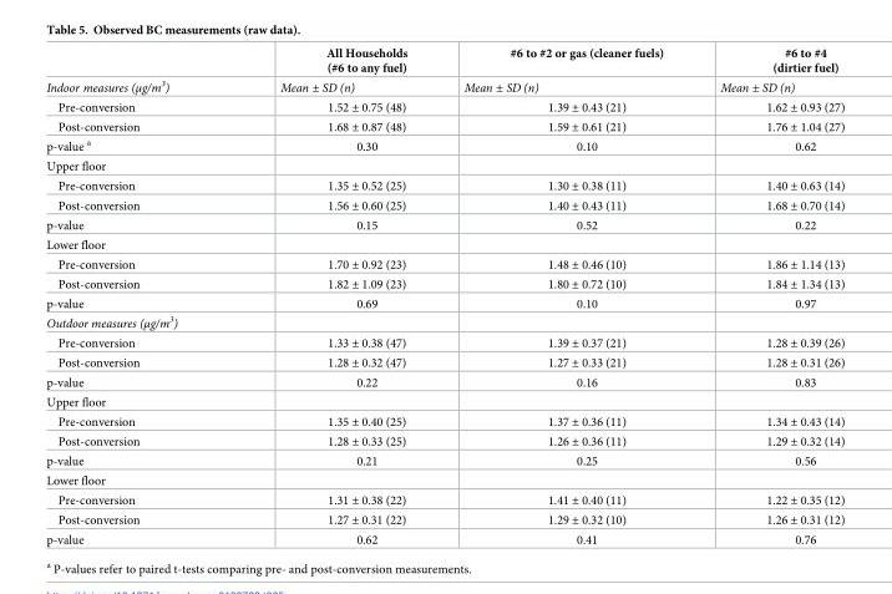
<table><thead><tr><td></td><td>All Households (#6 to any fuel)</td><td>#6 to #2 or gas (cleaner fuels)</td><td>#6 to #4 (dirtier fuel)</td></tr></thead><tbody><tr><td>Indoor measures (μg/m<sup>3</sup>)</td><td>Mean ± SD (n)</td><td>Mean ± SD (n)</td><td>Mean ± SD (n)</td></tr><tr><td>Pre-conversion</td><td>1.52 ± 0.75 (48)</td><td>1.39 ± 0.43 (21)</td><td>1.62 ± 0.93 (27)</td></tr><tr><td>Post-conversion</td><td>1.68 ± 0.87 (48)</td><td>1.59 ± 0.61 (21)</td><td>1.76 ± 1.04 (27)</td></tr><tr><td>p-value <sup>a</sup></td><td>0.30</td><td>0.10</td><td>0.62</td></tr><tr><td colspan="4">Upper floor</td></tr><tr><td>Pre-conversion</td><td>1.35 ± 0.52 (25)</td><td>1.30 ± 0.38 (11)</td><td>1.40 ± 0.63 (14)</td></tr><tr><td>Post-conversion</td><td>1.56 ± 0.60 (25)</td><td>1.40 ± 0.43 (11)</td><td>1.68 ± 0.70 (14)</td></tr><tr><td>p-value</td><td>0.15</td><td>0.52</td><td>0.22</td></tr><tr><td colspan="4">Lower floor</td></tr><tr><td>Pre-conversion</td><td>1.70 ± 0.92 (23)</td><td>1.48 ± 0.46 (10)</td><td>1.86 ± 1.14 (13)</td></tr><tr><td>Post-conversion</td><td>1.82 ± 1.09 (23)</td><td>1.80 ± 0.72 (10)</td><td>1.84 ± 1.34 (13)</td></tr><tr><td>p-value</td><td>0.69</td><td>0.10</td><td>0.97</td></tr><tr><td colspan="4">Outdoor measures (μg/m<sup>3</sup>)</td></tr><tr><td>Pre-conversion</td><td>1.33 ± 0.38 (47)</td><td>1.39 ± 0.37 (21)</td><td>1.28 ± 0.39 (26)</td></tr><tr><td>Post-conversion</td><td>1.28 ± 0.32 (47)</td><td>1.27 ± 0.33 (21)</td><td>1.28 ± 0.31 (26)</td></tr><tr><td>p-value</td><td>0.22</td><td>0.16</td><td>0.83</td></tr><tr><td colspan="4">Upper floor</td></tr><tr><td>Pre-conversion</td><td>1.35 ± 0.40 (25)</td><td>1.37 ± 0.36 (11)</td><td>1.34 ± 0.43 (14)</td></tr><tr><td>Post-conversion</td><td>1.28 ± 0.33 (25)</td><td>1.26 ± 0.36 (11)</td><td>1.29 ± 0.32 (14)</td></tr><tr><td>p-value</td><td>0.21</td><td>0.25</td><td>0.56</td></tr><tr><td colspan="4">Lower floor</td></tr><tr><td>Pre-conversion</td><td>1.31 ± 0.38 (22)</td><td>1.41 ± 0.40 (11)</td><td>1.22 ± 0.35 (12)</td></tr><tr><td>Post-conversion</td><td>1.27 ± 0.31 (22)</td><td>1.29 ± 0.32 (10)</td><td>1.26 ± 0.31 (12)</td></tr><tr><td>p-value</td><td>0.62</td><td>0.41</td><td>0.76</td></tr></tbody></table>